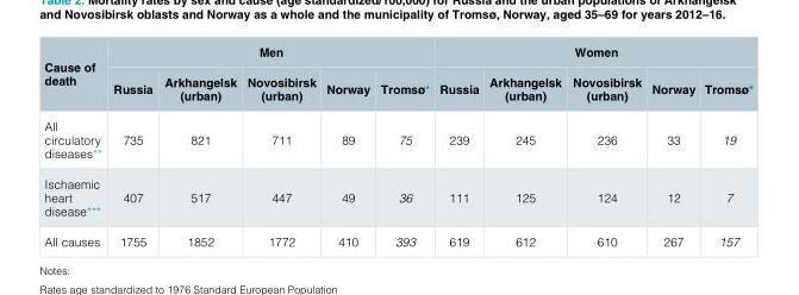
<table><thead><tr><td rowspan="2">Cause of death</td><td colspan="5">Men</td><td colspan="5">Women</td></tr><tr><td>Russia</td><td>Arkhangelsk (urban)</td><td>Novosibirsk (urban)</td><td>Norway</td><td>Tromsø*</td><td>Russia</td><td>Arkhangelsk (urban)</td><td>Novosibirsk (urban)</td><td>Norway</td><td>Tromsø*</td></tr></thead><tbody><tr><td>All circulatory diseases**</td><td>735</td><td>821</td><td>711</td><td>89</td><td>75</td><td>239</td><td>245</td><td>236</td><td>33</td><td>19</td></tr><tr><td>Ischaemic heart disease***</td><td>407</td><td>517</td><td>447</td><td>49</td><td>36</td><td>111</td><td>125</td><td>124</td><td>12</td><td>7</td></tr><tr><td>All causes</td><td>1755</td><td>1852</td><td>1772</td><td>410</td><td>393</td><td>619</td><td>612</td><td>610</td><td>267</td><td>157</td></tr></tbody></table>